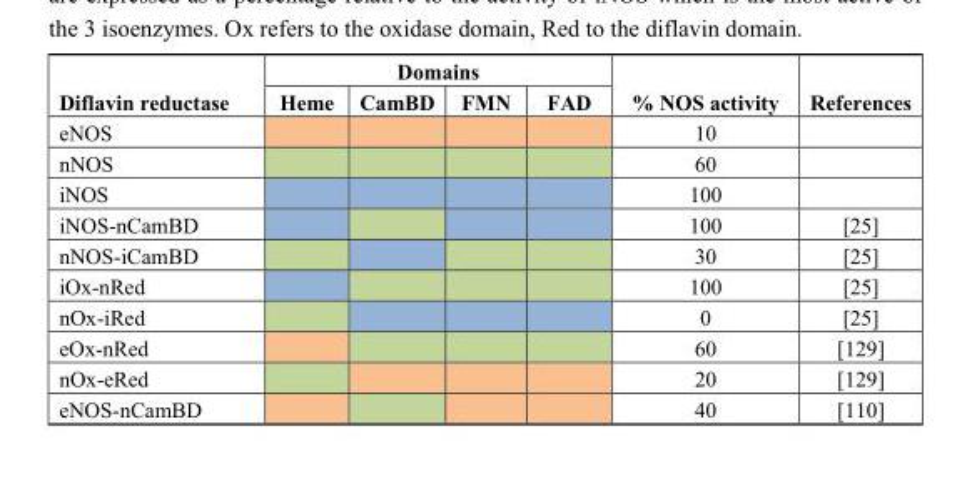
<table><thead><tr><td rowspan="2">Diflavin reductase</td><td colspan="4">Domains</td><td rowspan="2">% NOS activity</td><td rowspan="2">References</td></tr><tr><td>Heme</td><td>CamBD</td><td>FMN</td><td>FAD</td></tr></thead><tbody><tr><td>eNOS</td><td></td><td></td><td></td><td></td><td>10</td><td></td></tr><tr><td>nNOS</td><td></td><td></td><td></td><td></td><td>60</td><td></td></tr><tr><td>iNOS</td><td></td><td></td><td></td><td></td><td>100</td><td></td></tr><tr><td>iNOS-nCamBD</td><td></td><td></td><td></td><td></td><td>100</td><td>[25]</td></tr><tr><td>nNOS-iCamBD</td><td></td><td></td><td></td><td></td><td>30</td><td>[25]</td></tr><tr><td>iOx-nRed</td><td></td><td></td><td></td><td></td><td>100</td><td>[25]</td></tr><tr><td>nOx-iRed</td><td></td><td></td><td></td><td></td><td>0</td><td>[25]</td></tr><tr><td>eOx-nRed</td><td></td><td></td><td></td><td></td><td>60</td><td>[129]</td></tr><tr><td>nOx-eRed</td><td></td><td></td><td></td><td></td><td>20</td><td>[129]</td></tr><tr><td>eNOS-nCamBD</td><td></td><td></td><td></td><td></td><td>40</td><td>[110]</td></tr></tbody></table>